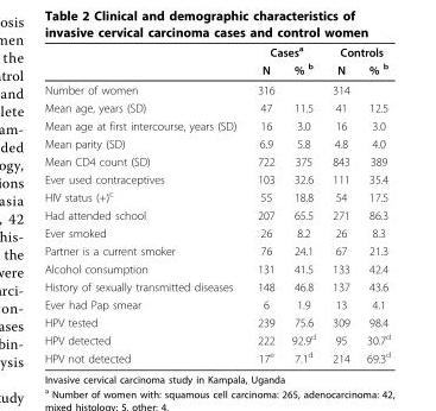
<table><thead><tr><td rowspan="2"></td><td colspan="2">Cases<sup>a</sup></td><td colspan="2">Controls</td></tr><tr><td>N</td><td>% <sup>b</sup></td><td>N</td><td>% <sup>b</sup></td></tr></thead><tbody><tr><td>Number of women</td><td>316</td><td></td><td>314</td><td></td></tr><tr><td>Mean age, years (SD)</td><td>47</td><td>11.5</td><td>41</td><td>12.5</td></tr><tr><td>Mean age at first intercourse, years (SD)</td><td>16</td><td>3.0</td><td>16</td><td>3.0</td></tr><tr><td>Mean parity (SD)</td><td>6.9</td><td>5.8</td><td>4.8</td><td>4.0</td></tr><tr><td>Mean CD4 count (SD)</td><td>722</td><td>375</td><td>843</td><td>389</td></tr><tr><td>Ever used contraceptives</td><td>103</td><td>32.6</td><td>111</td><td>35.4</td></tr><tr><td>HIV status (+)<sup>c</sup></td><td>55</td><td>18.8</td><td>54</td><td>17.5</td></tr><tr><td>Had attended school</td><td>207</td><td>65.5</td><td>271</td><td>86.3</td></tr><tr><td>Ever smoked</td><td>26</td><td>8.2</td><td>26</td><td>8.3</td></tr><tr><td>Partner is a current smoker</td><td>76</td><td>24.1</td><td>67</td><td>21.3</td></tr><tr><td>Alcohol consumption</td><td>131</td><td>41.5</td><td>133</td><td>42.4</td></tr><tr><td>History of sexually transmitted diseases</td><td>148</td><td>46.8</td><td>137</td><td>43.6</td></tr><tr><td>Ever had Pap smear</td><td>6</td><td>1.9</td><td>13</td><td>4.1</td></tr><tr><td>HPV tested</td><td>239</td><td>75.6</td><td>309</td><td>98.4</td></tr><tr><td>HPV detected</td><td>222</td><td>92.9<sup>d</sup></td><td>95</td><td>30.7<sup>d</sup></td></tr><tr><td>HPV not detected</td><td>17<sup>e</sup></td><td>7.1<sup>d</sup></td><td>214</td><td>69.3<sup>d</sup></td></tr></tbody></table>